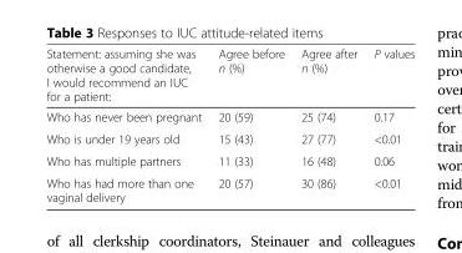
<table><thead><tr><td>Statement: assuming she was otherwise a good candidate, I would recommend an IUC for a patient:</td><td>Agree before n (%)</td><td>Agree after n (%)</td><td>P values</td></tr></thead><tbody><tr><td>Who has never been pregnant</td><td>20 (59)</td><td>25 (74)</td><td>0.17</td></tr><tr><td>Who is under 19 years old</td><td>15 (43)</td><td>27 (77)</td><td>&lt;0.01</td></tr><tr><td>Who has multiple partners</td><td>11 (33)</td><td>16 (48)</td><td>0.06</td></tr><tr><td>Who has had more than one vaginal delivery</td><td>20 (57)</td><td>30 (86)</td><td>&lt;0.01</td></tr></tbody></table>